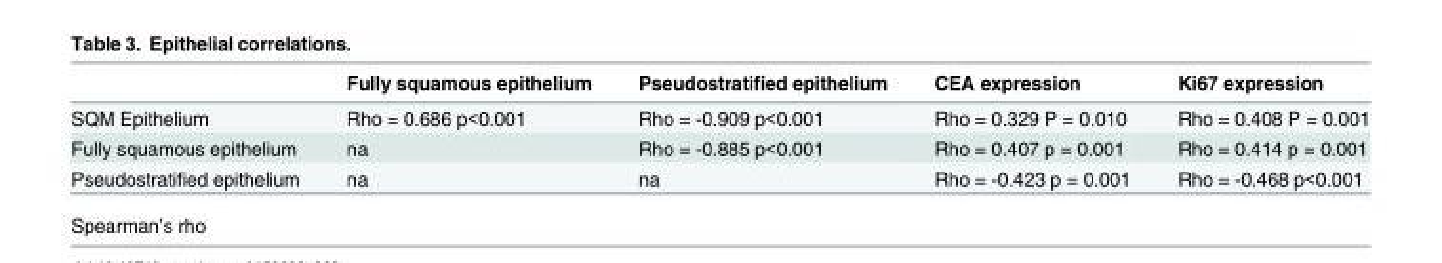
<table><thead><tr><td></td><td>Fully squamous epithelium</td><td>Pseudostratified epithelium</td><td>CEA expression</td><td>Ki67 expression</td></tr></thead><tbody><tr><td>SQM Epithelium</td><td>Rho = 0.686 p&lt;0.001</td><td>Rho = -0.909 p&lt;0.001</td><td>Rho = 0.329 P = 0.010</td><td>Rho = 0.408 P = 0.001</td></tr><tr><td>Fully squamous epithelium</td><td>na</td><td>Rho = -0.885 p&lt;0.001</td><td>Rho = 0.407 p = 0.001</td><td>Rho = 0.414 p = 0.001</td></tr><tr><td>Pseudostratified epithelium</td><td>na</td><td>na</td><td>Rho = -0.423 p = 0.001</td><td>Rho = -0.468 p&lt;0.001</td></tr></tbody></table>